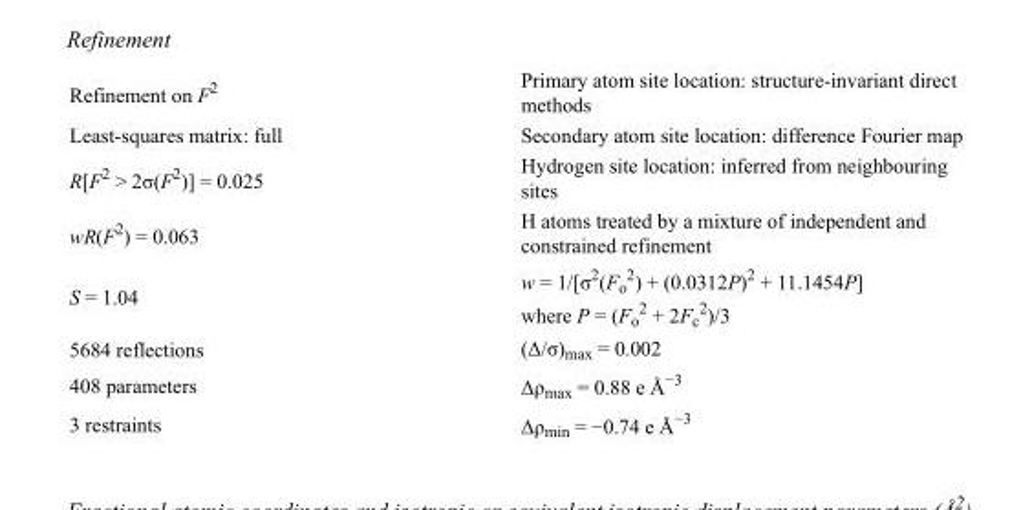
<table><tbody><tr><td>Refinement on F<sup>2</sup></td><td>Primary atom site location: structure-invariant direct methods</td></tr><tr><td>Least-squares matrix: full</td><td>Secondary atom site location: difference Fourier map</td></tr><tr><td>R[F<sup>2</sup> &gt; 2σ(F<sup>2</sup>)] = 0.025</td><td>Hydrogen site location: inferred from neighbouring sites</td></tr><tr><td>wR(F<sup>2</sup>) = 0.063</td><td>H atoms treated by a mixture of independent and constrained refinement</td></tr><tr><td>S = 1.04</td><td>w = 1/[σ<sup>2</sup>(F<sub>o</sub> <sup>2</sup>) + (0.0312P)<sup>2</sup> + 11.1454P] where P = (F<sub>o</sub> <sup>2</sup> + 2F<sub>c</sub> <sup>2</sup>)/3</td></tr><tr><td>5684 reflections</td><td>(Δ/σ)<sub>max</sub> = 0.002</td></tr><tr><td>408 parameters</td><td>Δρ<sub>max</sub> = 0.88 e Å<sup>−3</sup></td></tr><tr><td>3 restraints</td><td>Δρ<sub>min</sub> = −0.74 e Å<sup>−3</sup></td></tr></tbody></table>